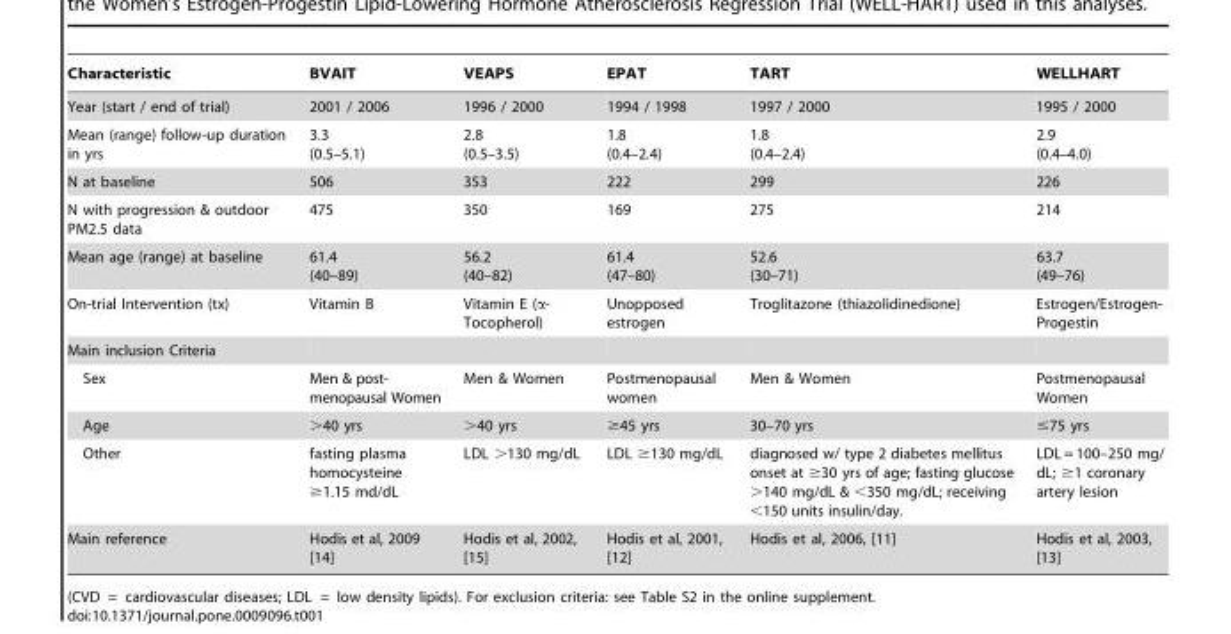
<table><thead><tr><td>Characteristic</td><td>BVAIT</td><td>VEAPS</td><td>EPAT</td><td>TART</td><td>WELLHART</td></tr></thead><tbody><tr><td>Year (start / end of trial)</td><td>2001 / 2006</td><td>1996 / 2000</td><td>1994 / 1998</td><td>1997 / 2000</td><td>1995 / 2000</td></tr><tr><td>Mean (range) follow-up duration in yrs</td><td>3.3 (0.5–5.1)</td><td>2.8 (0.5–3.5)</td><td>1.8 (0.4–2.4)</td><td>1.8 (0.4–2.4)</td><td>2.9 (0.4–4.0)</td></tr><tr><td>N at baseline</td><td>506</td><td>353</td><td>222</td><td>299</td><td>226</td></tr><tr><td>N with progression &amp; outdoor PM2.5 data</td><td>475</td><td>350</td><td>169</td><td>275</td><td>214</td></tr><tr><td>Mean age (range) at baseline</td><td>61.4 (40–89)</td><td>56.2 (40–82)</td><td>61.4 (47–80)</td><td>52.6 (30–71)</td><td>63.7 (49–76)</td></tr><tr><td>On-trial Intervention (tx)</td><td>Vitamin B</td><td>Vitamin E (α- Tocopherol)</td><td>Unopposed estrogen</td><td>Troglitazone (thiazolidinedione)</td><td>Estrogen/Estrogen- Progestin</td></tr><tr><td colspan="6">Main inclusion Criteria</td></tr><tr><td>Sex</td><td>Men &amp; post- menopausal Women</td><td>Men &amp; Women</td><td>Postmenopausal women</td><td>Men &amp; Women</td><td>Postmenopausal Women</td></tr><tr><td>Age</td><td>&gt;40 yrs</td><td>&gt;40 yrs</td><td>≥45 yrs</td><td>30–70 yrs</td><td>≤75 yrs</td></tr><tr><td>Other</td><td>fasting plasma homocysteine ≥1.15 md/dL</td><td>LDL &gt;130 mg/dL</td><td>LDL ≥130 mg/dL</td><td>diagnosed w/ type 2 diabetes mellitus onset at ≥30 yrs of age; fasting glucose &gt;140 mg/dL &amp; &lt;350 mg/dL; receiving &lt;150 units insulin/day.</td><td>LDL = 100–250 mg/ dL; ≥1 coronary artery lesion</td></tr><tr><td>Main reference</td><td>Hodis et al, 2009 [14]</td><td>Hodis et al, 2002, [15]</td><td>Hodis et al, 2001, [12]</td><td>Hodis et al, 2006, [11]</td><td>Hodis et al, 2003, [13]</td></tr></tbody></table>